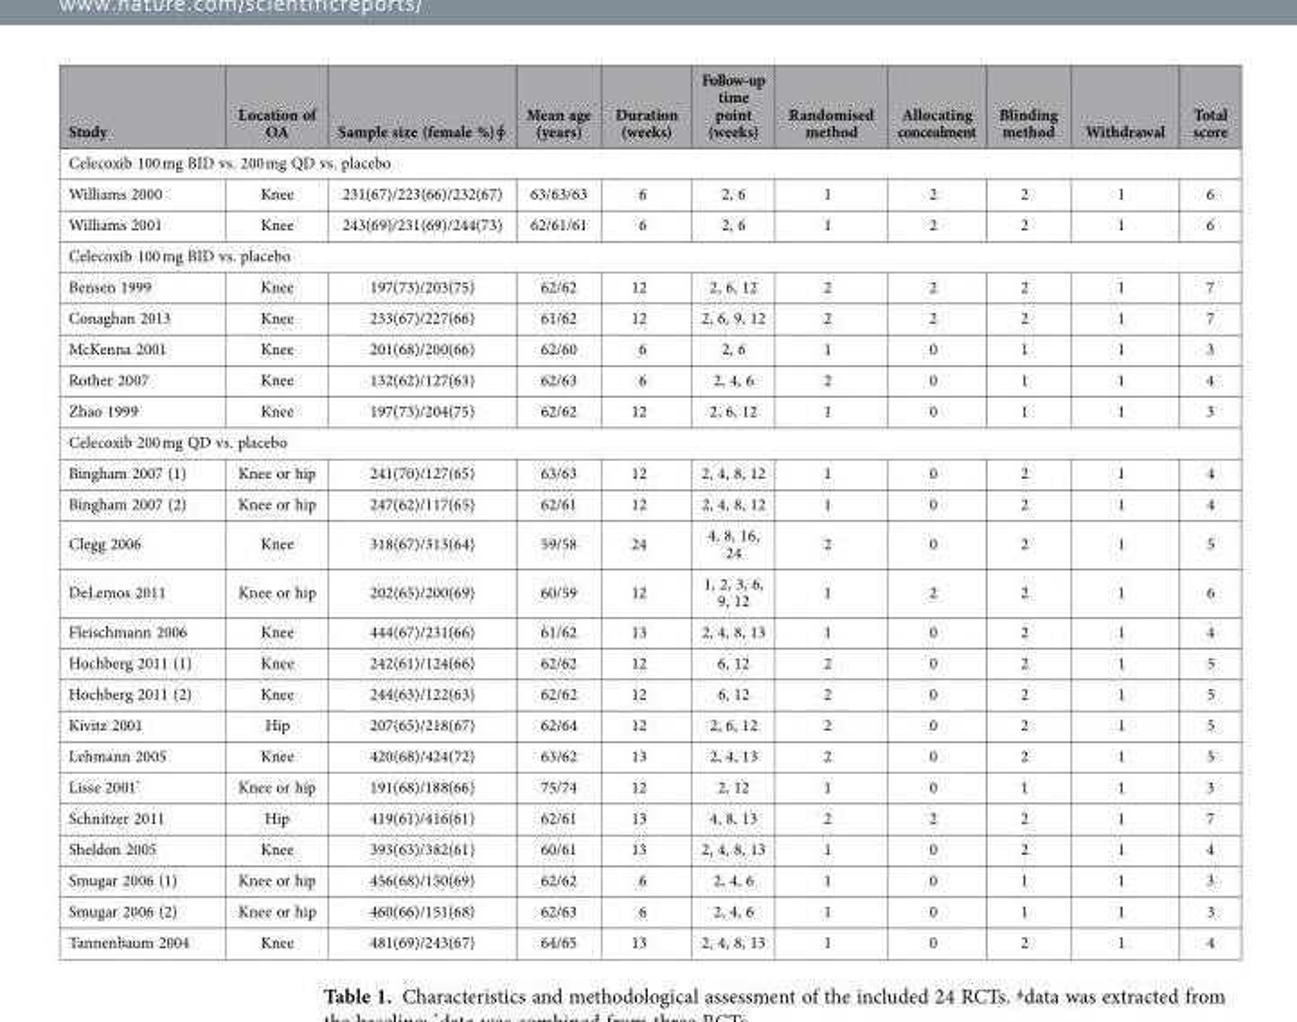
<table><thead><tr><td>Study</td><td>Location of OA</td><td>Sample size (female %)∮</td><td>Mean age (years)</td><td>Duration (weeks)</td><td>Follow-up time point (weeks)</td><td>Randomised method</td><td>Allocating concealment</td><td>Blinding method</td><td>Withdrawal</td><td>Total score</td></tr></thead><tbody><tr><td colspan="11">Celecoxib 100 mg BID vs. 200 mg QD vs. placebo</td></tr><tr><td>Williams 2000</td><td>Knee</td><td>231(67)/223(66)/232(67)</td><td>63/63/63</td><td>6</td><td>2, 6</td><td>1</td><td>2</td><td>2</td><td>1</td><td>6</td></tr><tr><td>Williams 2001</td><td>Knee</td><td>243(69)/231(69)/244(73)</td><td>62/61/61</td><td>6</td><td>2, 6</td><td>1</td><td>2</td><td>2</td><td>1</td><td>6</td></tr><tr><td colspan="11">Celecoxib 100 mg BID vs. placebo</td></tr><tr><td>Bensen 1999</td><td>Knee</td><td>197(73)/203(75)</td><td>62/62</td><td>12</td><td>2, 6, 12</td><td>2</td><td>2</td><td>2</td><td>1</td><td>7</td></tr><tr><td>Conaghan 2013</td><td>Knee</td><td>233(67)/227(66)</td><td>61/62</td><td>12</td><td>2, 6, 9, 12</td><td>2</td><td>2</td><td>2</td><td>1</td><td>7</td></tr><tr><td>McKenna 2001</td><td>Knee</td><td>201(68)/200(66)</td><td>62/60</td><td>6</td><td>2, 6</td><td>1</td><td>0</td><td>1</td><td>1</td><td>3</td></tr><tr><td>Rother 2007</td><td>Knee</td><td>132(62)/127(63)</td><td>62/63</td><td>6</td><td>2, 4, 6</td><td>2</td><td>0</td><td>1</td><td>1</td><td>4</td></tr><tr><td>Zhao 1999</td><td>Knee</td><td>197(73)/204(75)</td><td>62/62</td><td>12</td><td>2, 6, 12</td><td>1</td><td>0</td><td>1</td><td>1</td><td>3</td></tr><tr><td colspan="11">Celecoxib 200 mg QD vs. placebo</td></tr><tr><td>Bingham 2007 (1)</td><td>Knee or hip</td><td>241(70)/127(65)</td><td>63/63</td><td>12</td><td>2, 4, 8, 12</td><td>1</td><td>0</td><td>2</td><td>1</td><td>4</td></tr><tr><td>Bingham 2007 (2)</td><td>Knee or hip</td><td>247(62)/117(65)</td><td>62/61</td><td>12</td><td>2, 4, 8, 12</td><td>1</td><td>0</td><td>2</td><td>1</td><td>4</td></tr><tr><td>Clegg 2006</td><td>Knee</td><td>318(67)/313(64)</td><td>59/58</td><td>24</td><td>4, 8, 16, 24</td><td>2</td><td>0</td><td>2</td><td>1</td><td>5</td></tr><tr><td>DeLemos 2011</td><td>Knee or hip</td><td>202(65)/200(69)</td><td>60/59</td><td>12</td><td>1, 2, 3, 6, 9, 12</td><td>1</td><td>2</td><td>2</td><td>1</td><td>6</td></tr><tr><td>Fleischmann 2006</td><td>Knee</td><td>444(67)/231(66)</td><td>61/62</td><td>13</td><td>2, 4, 8, 13</td><td>1</td><td>0</td><td>2</td><td>1</td><td>4</td></tr><tr><td>Hochberg 2011 (1)</td><td>Knee</td><td>242(61)/124(66)</td><td>62/62</td><td>12</td><td>6, 12</td><td>2</td><td>0</td><td>2</td><td>1</td><td>5</td></tr><tr><td>Hochberg 2011 (2)</td><td>Knee</td><td>244(63)/122(63)</td><td>62/62</td><td>12</td><td>6, 12</td><td>2</td><td>0</td><td>2</td><td>1</td><td>5</td></tr><tr><td>Kivitz 2001</td><td>Hip</td><td>207(65)/218(67)</td><td>62/64</td><td>12</td><td>2, 6, 12</td><td>2</td><td>0</td><td>2</td><td>1</td><td>5</td></tr><tr><td>Lehmann 2005</td><td>Knee</td><td>420(68)/424(72)</td><td>63/62</td><td>13</td><td>2, 4, 13</td><td>2</td><td>0</td><td>2</td><td>1</td><td>5</td></tr><tr><td>Lisse 2001*</td><td>Knee or hip</td><td>191(68)/188(66)</td><td>75/74</td><td>12</td><td>2, 12</td><td>1</td><td>0</td><td>1</td><td>1</td><td>3</td></tr><tr><td>Schnitzer 2011</td><td>Hip</td><td>419(61)/416(61)</td><td>62/61</td><td>13</td><td>4, 8, 13</td><td>2</td><td>2</td><td>2</td><td>1</td><td>7</td></tr><tr><td>Sheldon 2005</td><td>Knee</td><td>393(63)/382(61)</td><td>60/61</td><td>13</td><td>2, 4, 8, 13</td><td>1</td><td>0</td><td>2</td><td>1</td><td>4</td></tr><tr><td>Smugar 2006 (1)</td><td>Knee or hip</td><td>456(68)/150(69)</td><td>62/62</td><td>6</td><td>2, 4, 6</td><td>1</td><td>0</td><td>1</td><td>1</td><td>3</td></tr><tr><td>Smugar 2006 (2)</td><td>Knee or hip</td><td>460(66)/151(68)</td><td>62/63</td><td>6</td><td>2, 4, 6</td><td>1</td><td>0</td><td>1</td><td>1</td><td>3</td></tr><tr><td>Tannenbaum 2004</td><td>Knee</td><td>481(69)/243(67)</td><td>64/65</td><td>13</td><td>2, 4, 8, 13</td><td>1</td><td>0</td><td>2</td><td>1</td><td>4</td></tr></tbody></table>